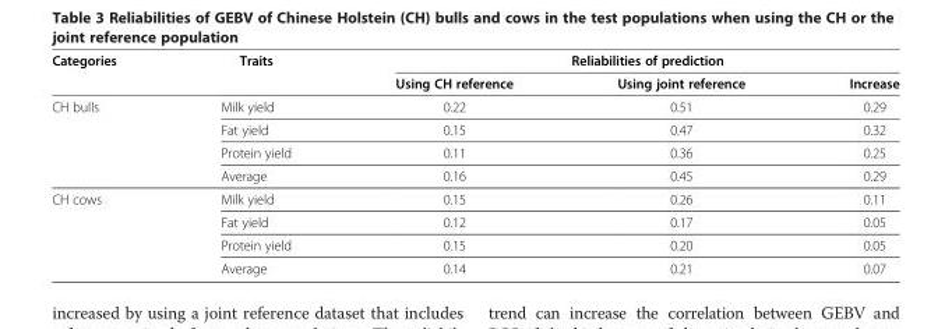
<table><thead><tr><td rowspan="2">Categories</td><td rowspan="2">Traits</td><td colspan="3">Reliabilities of prediction</td></tr><tr><td>Using CH reference</td><td>Using joint reference</td><td>Increase</td></tr></thead><tbody><tr><td rowspan="4">CH bulls</td><td>Milk yield</td><td>0.22</td><td>0.51</td><td>0.29</td></tr><tr><td>Fat yield</td><td>0.15</td><td>0.47</td><td>0.32</td></tr><tr><td>Protein yield</td><td>0.11</td><td>0.36</td><td>0.25</td></tr><tr><td>Average</td><td>0.16</td><td>0.45</td><td>0.29</td></tr><tr><td rowspan="4">CH cows</td><td>Milk yield</td><td>0.15</td><td>0.26</td><td>0.11</td></tr><tr><td>Fat yield</td><td>0.12</td><td>0.17</td><td>0.05</td></tr><tr><td>Protein yield</td><td>0.15</td><td>0.20</td><td>0.05</td></tr><tr><td>Average</td><td>0.14</td><td>0.21</td><td>0.07</td></tr></tbody></table>